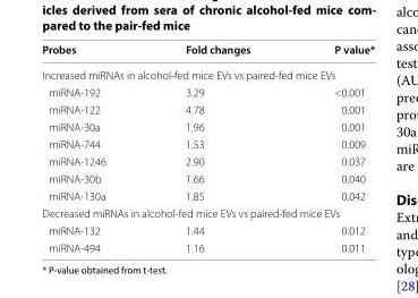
<table><thead><tr><td>Probes</td><td>Fold changes</td><td>P value*</td></tr></thead><tbody><tr><td colspan="3">Increased miRNAs in alcohol‑fed mice EVs vs paired‑fed mice EVs</td></tr><tr><td>miRNA‑192</td><td>3.29</td><td>&lt;0.001</td></tr><tr><td>miRNA‑122</td><td>4.78</td><td>0.001</td></tr><tr><td>miRNA‑30a</td><td>1.96</td><td>0.001</td></tr><tr><td>miRNA‑744</td><td>1.53</td><td>0.009</td></tr><tr><td>miRNA‑1246</td><td>2.90</td><td>0.037</td></tr><tr><td>miRNA‑30b</td><td>1.66</td><td>0.040</td></tr><tr><td>miRNA‑130a</td><td>1.85</td><td>0.042</td></tr><tr><td colspan="3">Decreased miRNAs in alcohol‑fed mice EVs vs paired‑fed mice EVs</td></tr><tr><td>miRNA‑132</td><td>1.44</td><td>0.012</td></tr><tr><td>miRNA‑494</td><td>1.16</td><td>0.011</td></tr></tbody></table>